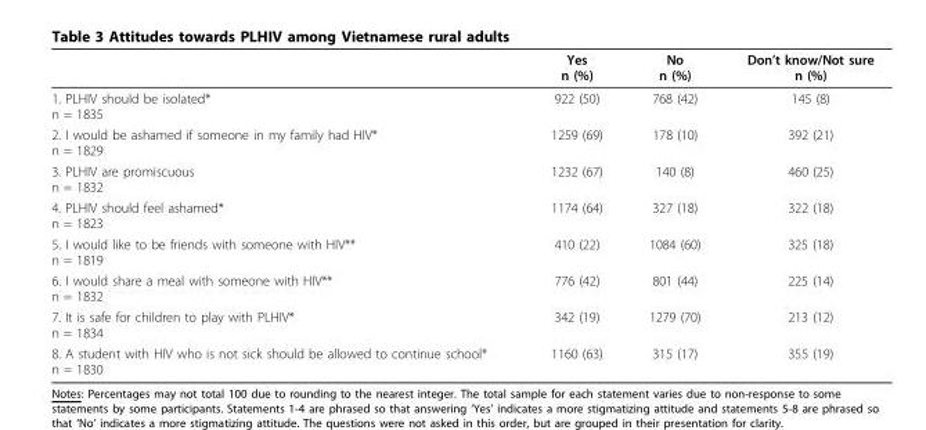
<table><thead><tr><td></td><td>Yes n (%)</td><td>No n (%)</td><td>Don’t know/Not sure n (%)</td></tr></thead><tbody><tr><td>1. PLHIV should be isolated* n = 1835</td><td>922 (50)</td><td>768 (42)</td><td>145 (8)</td></tr><tr><td>2. I would be ashamed if someone in my family had HIV* n = 1829</td><td>1259 (69)</td><td>178 (10)</td><td>392 (21)</td></tr><tr><td>3. PLHIV are promiscuous n = 1832</td><td>1232 (67)</td><td>140 (8)</td><td>460 (25)</td></tr><tr><td>4. PLHIV should feel ashamed* n = 1823</td><td>1174 (64)</td><td>327 (18)</td><td>322 (18)</td></tr><tr><td>5. I would like to be friends with someone with HIV** n = 1819</td><td>410 (22)</td><td>1084 (60)</td><td>325 (18)</td></tr><tr><td>6. I would share a meal with someone with HIV** n = 1832</td><td>776 (42)</td><td>801 (44)</td><td>225 (14)</td></tr><tr><td>7. It is safe for children to play with PLHIV* n = 1834</td><td>342 (19)</td><td>1279 (70)</td><td>213 (12)</td></tr><tr><td>8. A student with HIV who is not sick should be allowed to continue school* n = 1830</td><td>1160 (63)</td><td>315 (17)</td><td>355 (19)</td></tr></tbody></table>